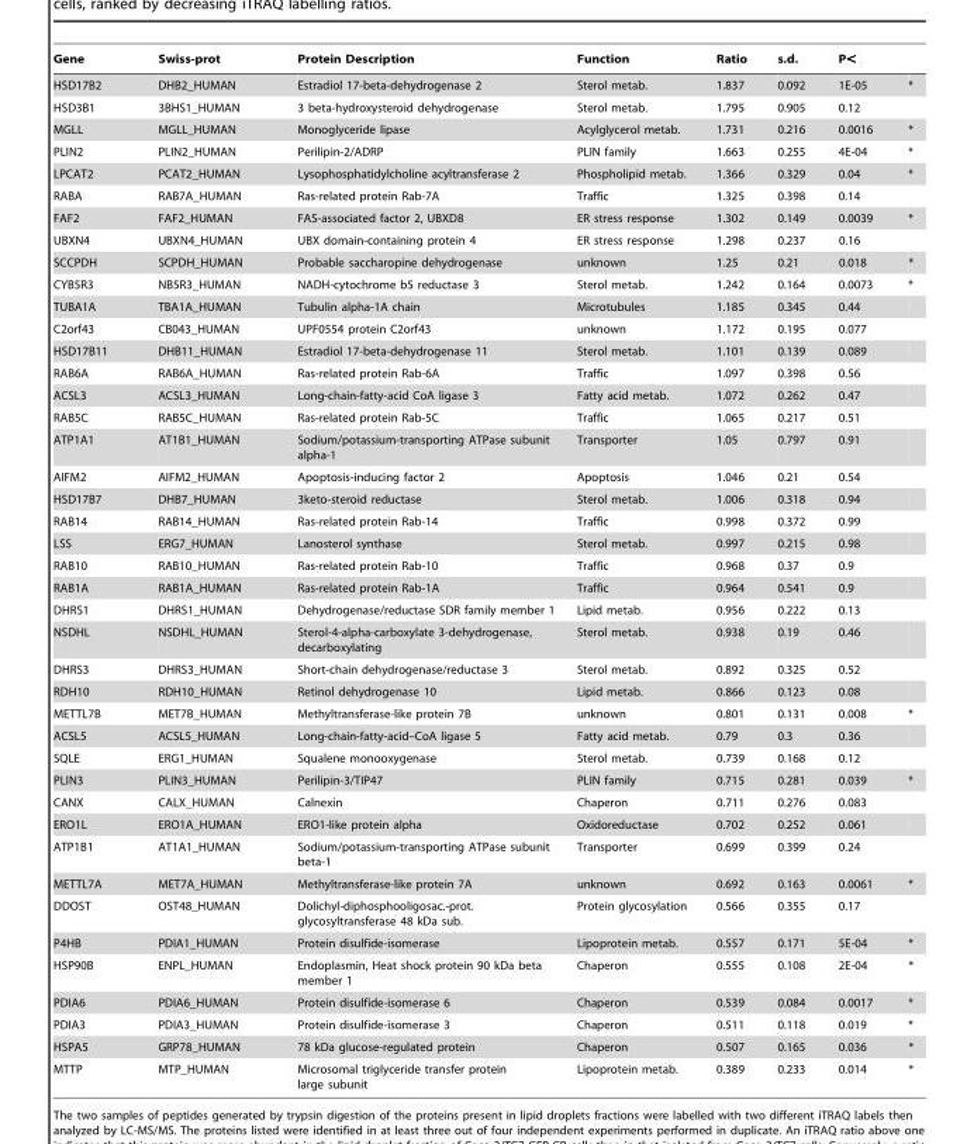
<table><thead><tr><td>Gene</td><td>Swiss-prot</td><td>Protein Description</td><td>Function</td><td>Ratio</td><td>s.d.</td><td>P&lt;</td><td></td></tr></thead><tbody><tr><td>HSD17B2</td><td>DHB2_HUMAN</td><td>Estradiol 17-beta-dehydrogenase 2</td><td>Sterol metab.</td><td>1.837</td><td>0.092</td><td>1E-05</td><td>*</td></tr><tr><td>HSD3B1</td><td>3BHS1_HUMAN</td><td>3 beta-hydroxysteroid dehydrogenase</td><td>Sterol metab.</td><td>1.795</td><td>0.905</td><td>0.12</td><td></td></tr><tr><td>MGLL</td><td>MGLL_HUMAN</td><td>Monoglyceride lipase</td><td>Acylglycerol metab.</td><td>1.731</td><td>0.216</td><td>0.0016</td><td>*</td></tr><tr><td>PLIN2</td><td>PLIN2_HUMAN</td><td>Perilipin-2/ADRP</td><td>PLIN family</td><td>1.663</td><td>0.255</td><td>4E-04</td><td>*</td></tr><tr><td>LPCAT2</td><td>PCAT2_HUMAN</td><td>Lysophosphatidylcholine acyltransferase 2</td><td>Phospholipid metab.</td><td>1.366</td><td>0.329</td><td>0.04</td><td>*</td></tr><tr><td>RABA</td><td>RAB7A_HUMAN</td><td>Ras-related protein Rab-7A</td><td>Traffic</td><td>1.325</td><td>0.398</td><td>0.14</td><td></td></tr><tr><td>FAF2</td><td>FAF2_HUMAN</td><td>FAS-associated factor 2, UBXD8</td><td>ER stress response</td><td>1.302</td><td>0.149</td><td>0.0039</td><td>*</td></tr><tr><td>UBXN4</td><td>UBXN4_HUMAN</td><td>UBX domain-containing protein 4</td><td>ER stress response</td><td>1.298</td><td>0.237</td><td>0.16</td><td></td></tr><tr><td>SCCPDH</td><td>SCPDH_HUMAN</td><td>Probable saccharopine dehydrogenase</td><td>unknown</td><td>1.25</td><td>0.21</td><td>0.018</td><td>*</td></tr><tr><td>CYB5R3</td><td>NB5R3_HUMAN</td><td>NADH-cytochrome b5 reductase 3</td><td>Sterol metab.</td><td>1.242</td><td>0.164</td><td>0.0073</td><td>*</td></tr><tr><td>TUBA1A</td><td>TBA1A_HUMAN</td><td>Tubulin alpha-1A chain</td><td>Microtubules</td><td>1.185</td><td>0.345</td><td>0.44</td><td></td></tr><tr><td>C2orf43</td><td>CB043_HUMAN</td><td>UPF0554 protein C2orf43</td><td>unknown</td><td>1.172</td><td>0.195</td><td>0.077</td><td></td></tr><tr><td>HSD17B11</td><td>DHB11_HUMAN</td><td>Estradiol 17-beta-dehydrogenase 11</td><td>Sterol metab.</td><td>1.101</td><td>0.139</td><td>0.089</td><td></td></tr><tr><td>RAB6A</td><td>RAB6A_HUMAN</td><td>Ras-related protein Rab-6A</td><td>Traffic</td><td>1.097</td><td>0.398</td><td>0.56</td><td></td></tr><tr><td>ACSL3</td><td>ACSL3_HUMAN</td><td>Long-chain-fatty-acid CoA ligase 3</td><td>Fatty acid metab.</td><td>1.072</td><td>0.262</td><td>0.47</td><td></td></tr><tr><td>RAB5C</td><td>RAB5C_HUMAN</td><td>Ras-related protein Rab-5C</td><td>Traffic</td><td>1.065</td><td>0.217</td><td>0.51</td><td></td></tr><tr><td>ATP1A1</td><td>AT1B1_HUMAN</td><td>Sodium/potassium-transporting ATPase subunit alpha-1</td><td>Transporter</td><td>1.05</td><td>0.797</td><td>0.91</td><td></td></tr><tr><td>AIFM2</td><td>AIFM2_HUMAN</td><td>Apoptosis-inducing factor 2</td><td>Apoptosis</td><td>1.046</td><td>0.21</td><td>0.54</td><td></td></tr><tr><td>HSD17B7</td><td>DHB7_HUMAN</td><td>3keto-steroid reductase</td><td>Sterol metab.</td><td>1.006</td><td>0.318</td><td>0.94</td><td></td></tr><tr><td>RAB14</td><td>RAB14_HUMAN</td><td>Ras-related protein Rab-14</td><td>Traffic</td><td>0.998</td><td>0.372</td><td>0.99</td><td></td></tr><tr><td>LSS</td><td>ERG7_HUMAN</td><td>Lanosterol synthase</td><td>Sterol metab.</td><td>0.997</td><td>0.215</td><td>0.98</td><td></td></tr><tr><td>RAB10</td><td>RAB10_HUMAN</td><td>Ras-related protein Rab-10</td><td>Traffic</td><td>0.968</td><td>0.37</td><td>0.9</td><td></td></tr><tr><td>RAB1A</td><td>RAB1A_HUMAN</td><td>Ras-related protein Rab-1A</td><td>Traffic</td><td>0.964</td><td>0.541</td><td>0.9</td><td></td></tr><tr><td>DHRS1</td><td>DHRS1_HUMAN</td><td>Dehydrogenase/reductase SDR family member 1</td><td>Lipid metab.</td><td>0.956</td><td>0.222</td><td>0.13</td><td></td></tr><tr><td>NSDHL</td><td>NSDHL_HUMAN</td><td>Sterol-4-alpha-carboxylate 3-dehydrogenase, decarboxylating</td><td>Sterol metab.</td><td>0.938</td><td>0.19</td><td>0.46</td><td></td></tr><tr><td>DHRS3</td><td>DHRS3_HUMAN</td><td>Short-chain dehydrogenase/reductase 3</td><td>Sterol metab.</td><td>0.892</td><td>0.325</td><td>0.52</td><td></td></tr><tr><td>RDH10</td><td>RDH10_HUMAN</td><td>Retinol dehydrogenase 10</td><td>Lipid metab.</td><td>0.866</td><td>0.123</td><td>0.08</td><td></td></tr><tr><td>METTL7B</td><td>MET7B_HUMAN</td><td>Methyltransferase-like protein 7B</td><td>unknown</td><td>0.801</td><td>0.131</td><td>0.008</td><td>*</td></tr><tr><td>ACSL5</td><td>ACSL5_HUMAN</td><td>Long-chain-fatty-acid–CoA ligase 5</td><td>Fatty acid metab.</td><td>0.79</td><td>0.3</td><td>0.36</td><td></td></tr><tr><td>SQLE</td><td>ERG1_HUMAN</td><td>Squalene monooxygenase</td><td>Sterol metab.</td><td>0.739</td><td>0.168</td><td>0.12</td><td></td></tr><tr><td>PLIN3</td><td>PLIN3_HUMAN</td><td>Perilipin-3/TIP47</td><td>PLIN family</td><td>0.715</td><td>0.281</td><td>0.039</td><td>*</td></tr><tr><td>CANX</td><td>CALX_HUMAN</td><td>Calnexin</td><td>Chaperon</td><td>0.711</td><td>0.276</td><td>0.083</td><td></td></tr><tr><td>ERO1L</td><td>ERO1A_HUMAN</td><td>ERO1-like protein alpha</td><td>Oxidoreductase</td><td>0.702</td><td>0.252</td><td>0.061</td><td></td></tr><tr><td>ATP1B1</td><td>AT1A1_HUMAN</td><td>Sodium/potassium-transporting ATPase subunit beta-1</td><td>Transporter</td><td>0.699</td><td>0.399</td><td>0.24</td><td></td></tr><tr><td>METTL7A</td><td>MET7A_HUMAN</td><td>Methyltransferase-like protein 7A</td><td>unknown</td><td>0.692</td><td>0.163</td><td>0.0061</td><td>*</td></tr><tr><td>DDOST</td><td>OST48_HUMAN</td><td>Dolichyl-diphosphooligosac.-prot. glycosyltransferase 48 kDa sub.</td><td>Protein glycosylation</td><td>0.566</td><td>0.355</td><td>0.17</td><td></td></tr><tr><td>P4HB</td><td>PDIA1_HUMAN</td><td>Protein disulfide-isomerase</td><td>Lipoprotein metab.</td><td>0.557</td><td>0.171</td><td>5E-04</td><td>*</td></tr><tr><td>HSP90B</td><td>ENPL_HUMAN</td><td>Endoplasmin, Heat shock protein 90 kDa beta member 1</td><td>Chaperon</td><td>0.555</td><td>0.108</td><td>2E-04</td><td>*</td></tr><tr><td>PDIA6</td><td>PDIA6_HUMAN</td><td>Protein disulfide-isomerase 6</td><td>Chaperon</td><td>0.539</td><td>0.084</td><td>0.0017</td><td>*</td></tr><tr><td>PDIA3</td><td>PDIA3_HUMAN</td><td>Protein disulfide-isomerase 3</td><td>Chaperon</td><td>0.511</td><td>0.118</td><td>0.019</td><td>*</td></tr><tr><td>HSPA5</td><td>GRP78_HUMAN</td><td>78 kDa glucose-regulated protein</td><td>Chaperon</td><td>0.507</td><td>0.165</td><td>0.036</td><td>*</td></tr><tr><td>MTTP</td><td>MTP_HUMAN</td><td>Microsomal triglyceride transfer protein large subunit</td><td>Lipoprotein metab.</td><td>0.389</td><td>0.233</td><td>0.014</td><td>*</td></tr></tbody></table>